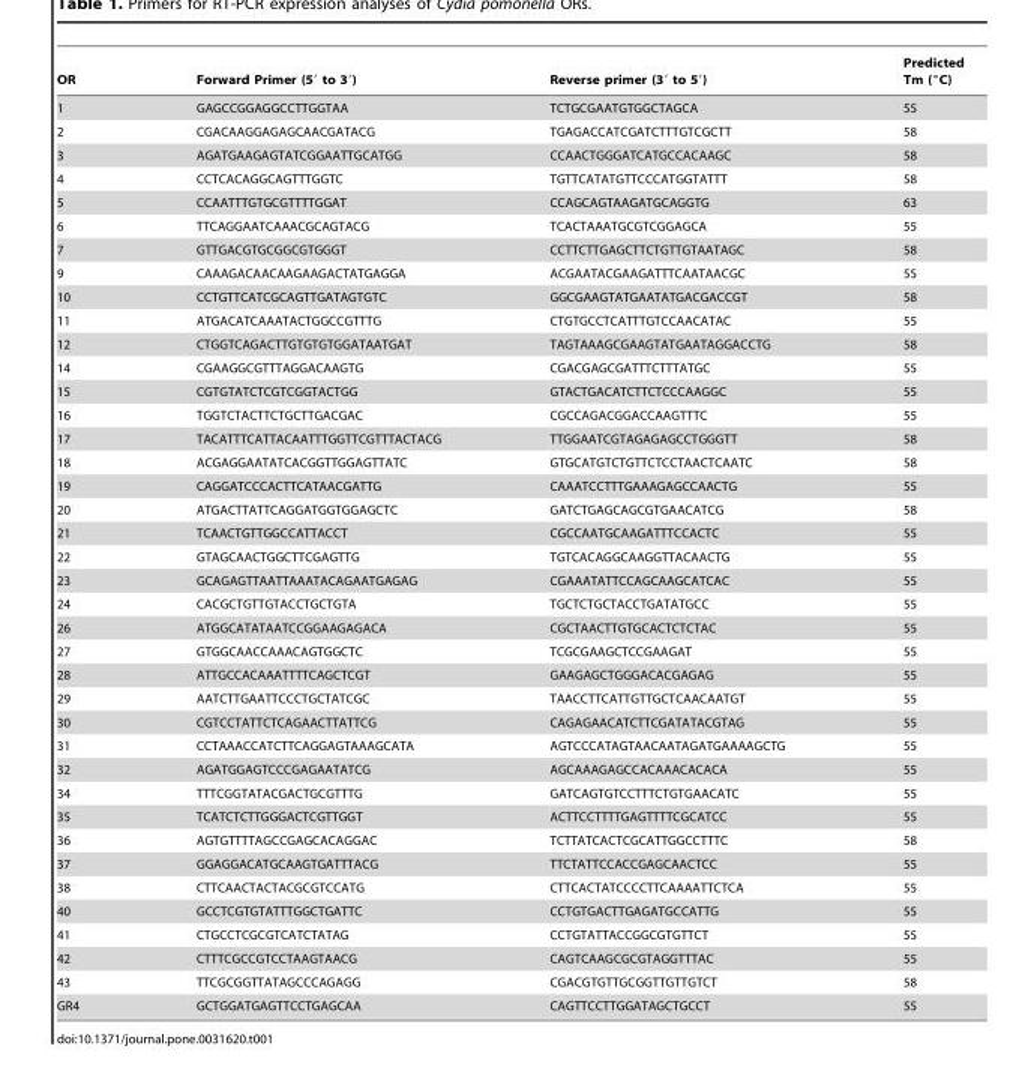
<table><thead><tr><td>OR</td><td>Forward Primer (5′ to 3′)</td><td>Reverse primer (3′ to 5′)</td><td>Predicted Tm (°C)</td></tr></thead><tbody><tr><td>1</td><td>GAGCCGGAGGCCTTGGTAA</td><td>TCTGCGAATGTGGCTAGCA</td><td>55</td></tr><tr><td>2</td><td>CGACAAGGAGAGCAACGATACG</td><td>TGAGACCATCGATCTTTGTCGCTT</td><td>58</td></tr><tr><td>3</td><td>AGATGAAGAGTATCGGAATTGCATGG</td><td>CCAACTGGGATCATGCCACAAGC</td><td>58</td></tr><tr><td>4</td><td>CCTCACAGGCAGTTTGGTC</td><td>TGTTCATATGTTCCCATGGTATTT</td><td>58</td></tr><tr><td>5</td><td>CCAATTTGTGCGTTTTGGAT</td><td>CCAGCAGTAAGATGCAGGTG</td><td>63</td></tr><tr><td>6</td><td>TTCAGGAATCAAACGCAGTACG</td><td>TCACTAAATGCGTCGGAGCA</td><td>55</td></tr><tr><td>7</td><td>GTTGACGTGCGGCGTGGGT</td><td>CCTTCTTGAGCTTCTGTTGTAATAGC</td><td>58</td></tr><tr><td>9</td><td>CAAAGACAACAAGAAGACTATGAGGA</td><td>ACGAATACGAAGATTTCAATAACGC</td><td>55</td></tr><tr><td>10</td><td>CCTGTTCATCGCAGTTGATAGTGTC</td><td>GGCGAAGTATGAATATGACGACCGT</td><td>58</td></tr><tr><td>11</td><td>ATGACATCAAATACTGGCCGTTTG</td><td>CTGTGCCTCATTTGTCCAACATAC</td><td>55</td></tr><tr><td>12</td><td>CTGGTCAGACTTGTGTGTGGATAATGAT</td><td>TAGTAAAGCGAAGTATGAATAGGACCTG</td><td>58</td></tr><tr><td>14</td><td>CGAAGGCGTTTAGGACAAGTG</td><td>CGACGAGCGATTTCTTTATGC</td><td>55</td></tr><tr><td>15</td><td>CGTGTATCTCGTCGGTACTGG</td><td>GTACTGACATCTTCTCCCAAGGC</td><td>55</td></tr><tr><td>16</td><td>TGGTCTACTTCTGCTTGACGAC</td><td>CGCCAGACGGACCAAGTTTC</td><td>55</td></tr><tr><td>17</td><td>TACATTTCATTACAATTTGGTTCGTTTACTACG</td><td>TTGGAATCGTAGAGAGCCTGGGTT</td><td>58</td></tr><tr><td>18</td><td>ACGAGGAATATCACGGTTGGAGTTATC</td><td>GTGCATGTCTGTTCTCCTAACTCAATC</td><td>58</td></tr><tr><td>19</td><td>CAGGATCCCACTTCATAACGATTG</td><td>CAAATCCTTTGAAAGAGCCAACTG</td><td>55</td></tr><tr><td>20</td><td>ATGACTTATTCAGGATGGTGGAGCTC</td><td>GATCTGAGCAGCGTGAACATCG</td><td>58</td></tr><tr><td>21</td><td>TCAACTGTTGGCCATTACCT</td><td>CGCCAATGCAAGATTTCCACTC</td><td>55</td></tr><tr><td>22</td><td>GTAGCAACTGGCTTCGAGTTG</td><td>TGTCACAGGCAAGGTTACAACTG</td><td>55</td></tr><tr><td>23</td><td>GCAGAGTTAATTAAATACAGAATGAGAG</td><td>CGAAATATTCCAGCAAGCATCAC</td><td>55</td></tr><tr><td>24</td><td>CACGCTGTTGTACCTGCTGTA</td><td>TGCTCTGCTACCTGATATGCC</td><td>55</td></tr><tr><td>26</td><td>ATGGCATATAATCCGGAAGAGACA</td><td>CGCTAACTTGTGCACTCTCTAC</td><td>55</td></tr><tr><td>27</td><td>GTGGCAACCAAACAGTGGCTC</td><td>TCGCGAAGCTCCGAAGAT</td><td>55</td></tr><tr><td>28</td><td>ATTGCCACAAATTTTCAGCTCGT</td><td>GAAGAGCTGGGACACGAGAG</td><td>55</td></tr><tr><td>29</td><td>AATCTTGAATTCCCTGCTATCGC</td><td>TAACCTTCATTGTTGCTCAACAATGT</td><td>55</td></tr><tr><td>30</td><td>CGTCCTATTCTCAGAACTTATTCG</td><td>CAGAGAACATCTTCGATATACGTAG</td><td>55</td></tr><tr><td>31</td><td>CCTAAACCATCTTCAGGAGTAAAGCATA</td><td>AGTCCCATAGTAACAATAGATGAAAAGCTG</td><td>55</td></tr><tr><td>32</td><td>AGATGGAGTCCCGAGAATATCG</td><td>AGCAAAGAGCCACAAACACACA</td><td>55</td></tr><tr><td>34</td><td>TTTCGGTATACGACTGCGTTTG</td><td>GATCAGTGTCCTTTCTGTGAACATC</td><td>55</td></tr><tr><td>35</td><td>TCATCTCTTGGGACTCGTTGGT</td><td>ACTTCCTTTTGAGTTTTCGCATCC</td><td>55</td></tr><tr><td>36</td><td>AGTGTTTTAGCCGAGCACAGGAC</td><td>TCTTATCACTCGCATTGGCCTTTC</td><td>58</td></tr><tr><td>37</td><td>GGAGGACATGCAAGTGATTTACG</td><td>TTCTATTCCACCGAGCAACTCC</td><td>55</td></tr><tr><td>38</td><td>CTTCAACTACTACGCGTCCATG</td><td>CTTCACTATCCCCTTCAAAATTCTCA</td><td>55</td></tr><tr><td>40</td><td>GCCTCGTGTATTTGGCTGATTC</td><td>CCTGTGACTTGAGATGCCATTG</td><td>55</td></tr><tr><td>41</td><td>CTGCCTCGCGTCATCTATAG</td><td>CCTGTATTACCGGCGTGTTCT</td><td>55</td></tr><tr><td>42</td><td>CTTTCGCCGTCCTAAGTAACG</td><td>CAGTCAAGCGCGTAGGTTTAC</td><td>55</td></tr><tr><td>43</td><td>TTCGCGGTTATAGCCCAGAGG</td><td>CGACGTGTTGCGGTTGTTGTCT</td><td>58</td></tr><tr><td>GR4</td><td>GCTGGATGAGTTCCTGAGCAA</td><td>CAGTTCCTTGGATAGCTGCCT</td><td>55</td></tr></tbody></table>